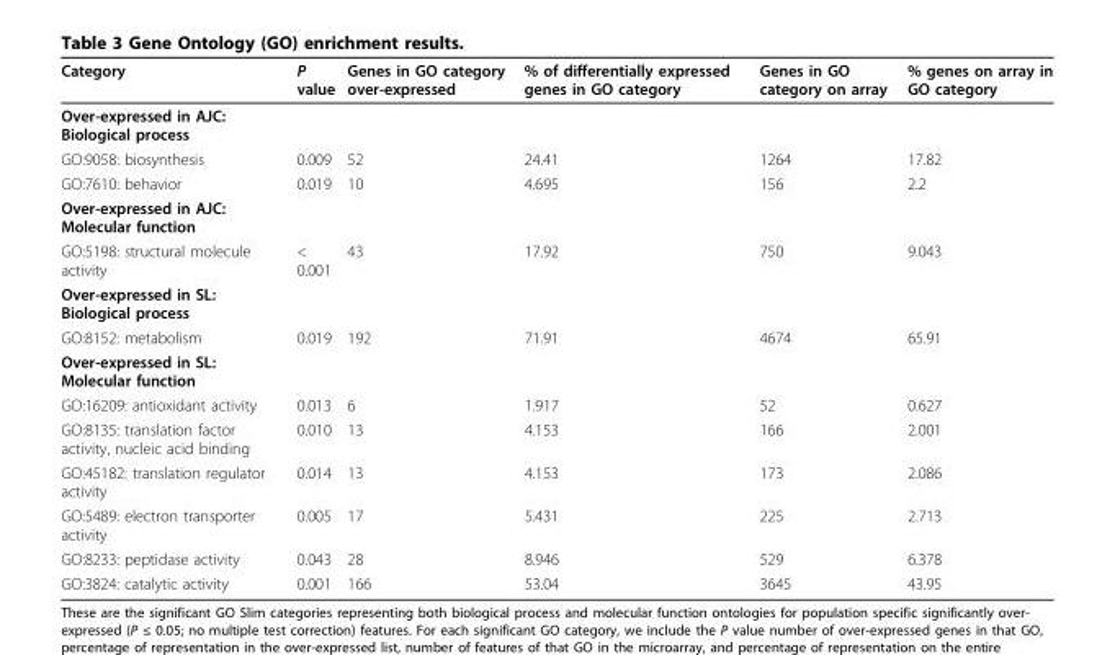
<table><thead><tr><td>Category</td><td>P value</td><td>Genes in GO category over-expressed</td><td>% of differentially expressed genes in GO category</td><td>Genes in GO category on array</td><td>% genes on array in GO category</td></tr></thead><tbody><tr><td colspan="6">Over-expressed in AJC: Biological process</td></tr><tr><td>GO:9058: biosynthesis</td><td>0.009</td><td>52</td><td>24.41</td><td>1264</td><td>17.82</td></tr><tr><td>GO:7610: behavior</td><td>0.019</td><td>10</td><td>4.695</td><td>156</td><td>2.2</td></tr><tr><td colspan="6">Over-expressed in AJC: Molecular function</td></tr><tr><td>GO:5198: structural molecule activity</td><td>&lt; 0.001</td><td>43</td><td>17.92</td><td>750</td><td>9.043</td></tr><tr><td colspan="6">Over-expressed in SL: Biological process</td></tr><tr><td>GO:8152: metabolism</td><td>0.019</td><td>192</td><td>71.91</td><td>4674</td><td>65.91</td></tr><tr><td colspan="6">Over-expressed in SL: Molecular function</td></tr><tr><td>GO:16209: antioxidant activity</td><td>0.013</td><td>6</td><td>1.917</td><td>52</td><td>0.627</td></tr><tr><td>GO:8135: translation factor activity, nucleic acid binding</td><td>0.010</td><td>13</td><td>4.153</td><td>166</td><td>2.001</td></tr><tr><td>GO:45182: translation regulator activity</td><td>0.014</td><td>13</td><td>4.153</td><td>173</td><td>2.086</td></tr><tr><td>GO:5489: electron transporter activity</td><td>0.005</td><td>17</td><td>5.431</td><td>225</td><td>2.713</td></tr><tr><td>GO:8233: peptidase activity</td><td>0.043</td><td>28</td><td>8.946</td><td>529</td><td>6.378</td></tr><tr><td>GO:3824: catalytic activity</td><td>0.001</td><td>166</td><td>53.04</td><td>3645</td><td>43.95</td></tr></tbody></table>